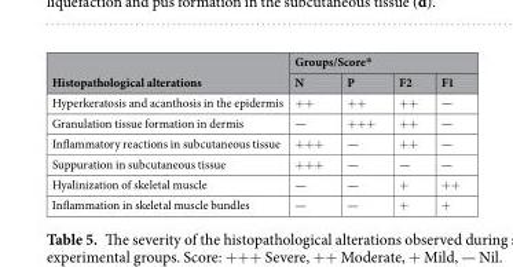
<table><thead><tr><td rowspan="2">Histopathological alterations</td><td colspan="4">Groups/Score*</td></tr><tr><td>N</td><td>P</td><td>F2</td><td>F1</td></tr></thead><tbody><tr><td>Hyperkeratosis and acanthosis in the epidermis</td><td>++</td><td>++</td><td>++</td><td>—</td></tr><tr><td>Granulation tissue formation in dermis</td><td>—</td><td>+++</td><td>++</td><td>—</td></tr><tr><td>Inflammatory reactions in subcutaneous tissue</td><td>+++</td><td>—</td><td>++</td><td>—</td></tr><tr><td>Suppuration in subcutaneous tissue</td><td>+++</td><td>—</td><td>—</td><td>—</td></tr><tr><td>Hyalinization of skeletal muscle</td><td>—</td><td>—</td><td>+</td><td>++</td></tr><tr><td>Inflammation in skeletal muscle bundles</td><td>—</td><td>—</td><td>+</td><td>+</td></tr></tbody></table>